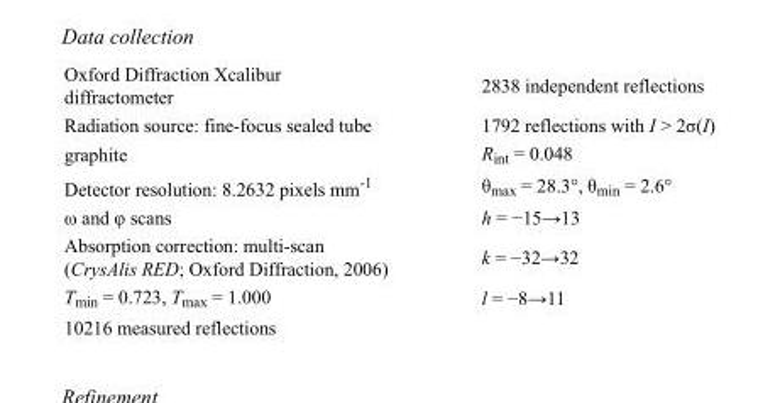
<table><tbody><tr><td>Oxford Diffraction Xcalibur diffractometer</td><td>2838 independent reflections</td></tr><tr><td>Radiation source: fine-focus sealed tube</td><td>1792 reflections with I &gt; 2σ(I)</td></tr><tr><td>graphite</td><td>R<sub>int</sub> = 0.048</td></tr><tr><td>Detector resolution: 8.2632 pixels mm<sup>-1</sup></td><td>θ<sub>max</sub> = 28.3°, θ<sub>min</sub> = 2.6°</td></tr><tr><td>ω and φ scans</td><td>h = −15→13</td></tr><tr><td>Absorption correction: multi-scan (CrysAlis RED; Oxford Diffraction, 2006)</td><td>k = −32→32</td></tr><tr><td>T<sub>min</sub> = 0.723, T<sub>max</sub> = 1.000</td><td>l = −8→11</td></tr><tr><td>10216 measured reflections</td><td></td></tr></tbody></table>